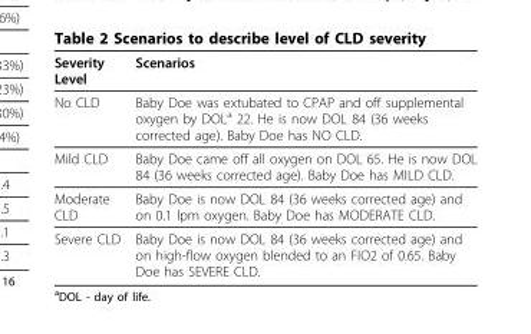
<table><thead><tr><td>Severity Level</td><td>Scenarios</td></tr></thead><tbody><tr><td>No CLD</td><td>Baby Doe was extubated to CPAP and off supplemental oxygen by DOL<sup>a</sup> 22. He is now DOL 84 (36 weeks corrected age). Baby Doe has NO CLD.</td></tr><tr><td>Mild CLD</td><td>Baby Doe came off all oxygen on DOL 65. He is now DOL 84 (36 weeks corrected age). Baby Doe has MILD CLD.</td></tr><tr><td>Moderate CLD</td><td>Baby Doe is now DOL 84 (36 weeks corrected age) and on 0.1 lpm oxygen. Baby Doe has MODERATE CLD.</td></tr><tr><td>Severe CLD</td><td>Baby Doe is now DOL 84 (36 weeks corrected age) and on high-flow oxygen blended to an FIO2 of 0.65. Baby Doe has SEVERE CLD.</td></tr></tbody></table>